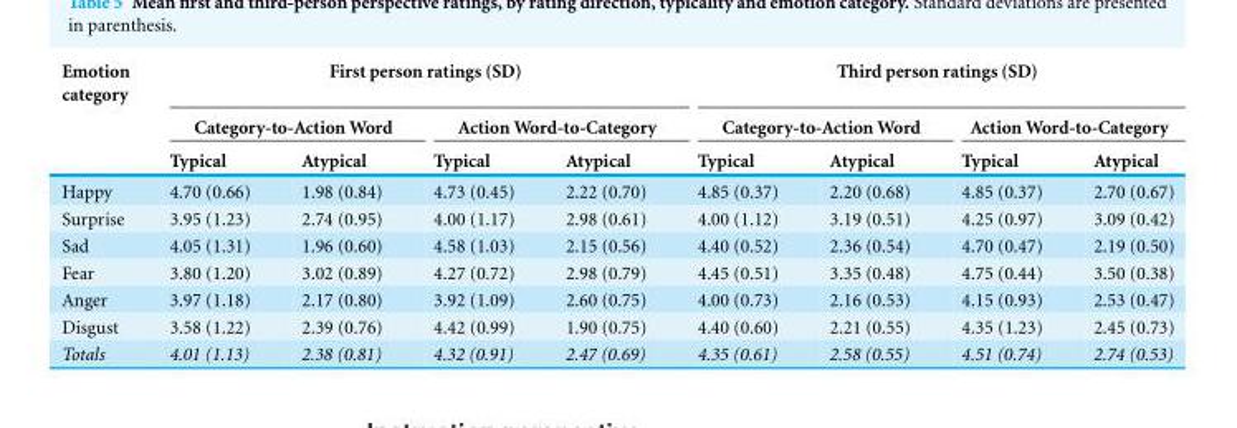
<table><thead><tr><td rowspan="3">Emotion category</td><td colspan="4">First person ratings (SD)</td><td colspan="4">Third person ratings (SD)</td></tr><tr><td colspan="2">Category-to-Action Word</td><td colspan="2">Action Word-to-Category</td><td colspan="2">Category-to-Action Word</td><td colspan="2">Action Word-to-Category</td></tr><tr><td>Typical</td><td>Atypical</td><td>Typical</td><td>Atypical</td><td>Typical</td><td>Atypical</td><td>Typical</td><td>Atypical</td></tr></thead><tbody><tr><td>Happy</td><td>4.70 (0.66)</td><td>1.98 (0.84)</td><td>4.73 (0.45)</td><td>2.22 (0.70)</td><td>4.85 (0.37)</td><td>2.20 (0.68)</td><td>4.85 (0.37)</td><td>2.70 (0.67)</td></tr><tr><td>Surprise</td><td>3.95 (1.23)</td><td>2.74 (0.95)</td><td>4.00 (1.17)</td><td>2.98 (0.61)</td><td>4.00 (1.12)</td><td>3.19 (0.51)</td><td>4.25 (0.97)</td><td>3.09 (0.42)</td></tr><tr><td>Sad</td><td>4.05 (1.31)</td><td>1.96 (0.60)</td><td>4.58 (1.03)</td><td>2.15 (0.56)</td><td>4.40 (0.52)</td><td>2.36 (0.54)</td><td>4.70 (0.47)</td><td>2.19 (0.50)</td></tr><tr><td>Fear</td><td>3.80 (1.20)</td><td>3.02 (0.89)</td><td>4.27 (0.72)</td><td>2.98 (0.79)</td><td>4.45 (0.51)</td><td>3.35 (0.48)</td><td>4.75 (0.44)</td><td>3.50 (0.38)</td></tr><tr><td>Anger</td><td>3.97 (1.18)</td><td>2.17 (0.80)</td><td>3.92 (1.09)</td><td>2.60 (0.75)</td><td>4.00 (0.73)</td><td>2.16 (0.53)</td><td>4.15 (0.93)</td><td>2.53 (0.47)</td></tr><tr><td>Disgust</td><td>3.58 (1.22)</td><td>2.39 (0.76)</td><td>4.42 (0.99)</td><td>1.90 (0.75)</td><td>4.40 (0.60)</td><td>2.21 (0.55)</td><td>4.35 (1.23)</td><td>2.45 (0.73)</td></tr><tr><td>Totals</td><td>4.01 (1.13)</td><td>2.38 (0.81)</td><td>4.32 (0.91)</td><td>2.47 (0.69)</td><td>4.35 (0.61)</td><td>2.58 (0.55)</td><td>4.51 (0.74)</td><td>2.74 (0.53)</td></tr></tbody></table>